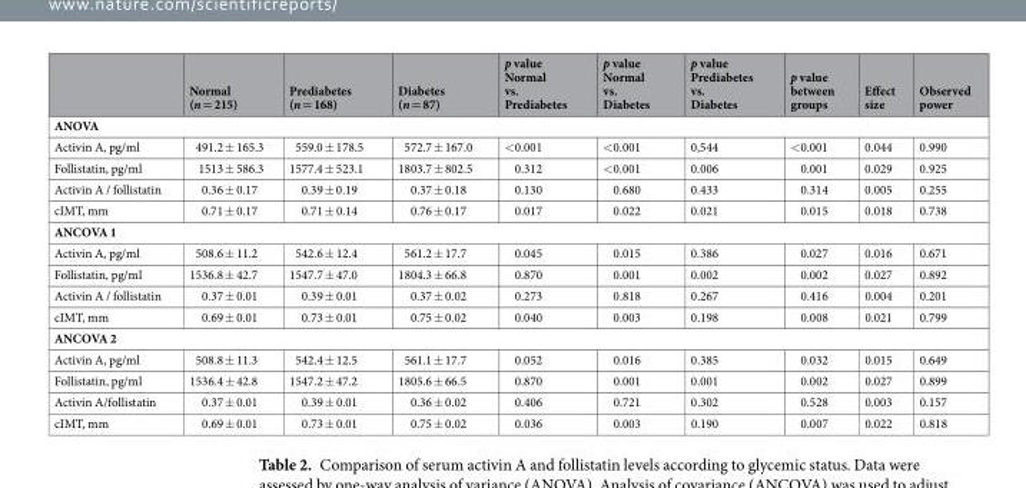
<table><thead><tr><td></td><td>Normal (n = 215)</td><td>Prediabetes (n = 168)</td><td>Diabetes (n = 87)</td><td>p value Normal vs. Prediabetes</td><td>p value Normal vs. Diabetes</td><td>p value Prediabetes vs. Diabetes</td><td>p value between groups</td><td>Effect size</td><td>Observed power</td></tr></thead><tbody><tr><td colspan="10">ANOVA</td></tr><tr><td>Activin A, pg/ml</td><td>491.2 ± 165.3</td><td>559.0 ± 178.5</td><td>572.7 ± 167.0</td><td>&lt;0.001</td><td>&lt;0.001</td><td>0,544</td><td>&lt;0.001</td><td>0.044</td><td>0.990</td></tr><tr><td>Follistatin, pg/ml</td><td>1513 ± 586.3</td><td>1577.4 ± 523.1</td><td>1803.7 ± 802.5</td><td>0.312</td><td>&lt;0.001</td><td>0.006</td><td>0.001</td><td>0.029</td><td>0.925</td></tr><tr><td>Activin A / follistatin</td><td>0.36 ± 0.17</td><td>0.39 ± 0.19</td><td>0.37 ± 0.18</td><td>0.130</td><td>0.680</td><td>0.433</td><td>0.314</td><td>0.005</td><td>0.255</td></tr><tr><td>cIMT, mm</td><td>0.71 ± 0.17</td><td>0.71 ± 0.14</td><td>0.76 ± 0.17</td><td>0.017</td><td>0.022</td><td>0.021</td><td>0.015</td><td>0.018</td><td>0.738</td></tr><tr><td colspan="10">ANCOVA 1</td></tr><tr><td>Activin A, pg/ml</td><td>508.6 ± 11.2</td><td>542.6 ± 12.4</td><td>561.2 ± 17.7</td><td>0.045</td><td>0.015</td><td>0.386</td><td>0.027</td><td>0.016</td><td>0.671</td></tr><tr><td>Follistatin, pg/ml</td><td>1536.8 ± 42.7</td><td>1547.7 ± 47.0</td><td>1804.3 ± 66.8</td><td>0.870</td><td>0.001</td><td>0.002</td><td>0.002</td><td>0.027</td><td>0.892</td></tr><tr><td>Activin A / follistatin</td><td>0.37 ± 0.01</td><td>0.39 ± 0.01</td><td>0.37 ± 0.02</td><td>0.273</td><td>0.818</td><td>0.267</td><td>0.416</td><td>0.004</td><td>0.201</td></tr><tr><td>cIMT, mm</td><td>0.69 ± 0.01</td><td>0.73 ± 0.01</td><td>0.75 ± 0.02</td><td>0.040</td><td>0.003</td><td>0.198</td><td>0.008</td><td>0.021</td><td>0.799</td></tr><tr><td colspan="10">ANCOVA 2</td></tr><tr><td>Activin A, pg/ml</td><td>508.8 ± 11.3</td><td>542.4 ± 12.5</td><td>561.1 ± 17.7</td><td>0.052</td><td>0.016</td><td>0.385</td><td>0.032</td><td>0.015</td><td>0.649</td></tr><tr><td>Follistatin, pg/ml</td><td>1536.4 ± 42.8</td><td>1547.2 ± 47.2</td><td>1805.6 ± 66.5</td><td>0.870</td><td>0.001</td><td>0.001</td><td>0.002</td><td>0.027</td><td>0.899</td></tr><tr><td>Activin A/follistatin</td><td>0.37 ± 0.01</td><td>0.39 ± 0.01</td><td>0.36 ± 0.02</td><td>0.406</td><td>0.721</td><td>0.302</td><td>0.528</td><td>0.003</td><td>0.157</td></tr><tr><td>cIMT, mm</td><td>0.69 ± 0.01</td><td>0.73 ± 0.01</td><td>0.75 ± 0.02</td><td>0.036</td><td>0.003</td><td>0.190</td><td>0.007</td><td>0.022</td><td>0.818</td></tr></tbody></table>